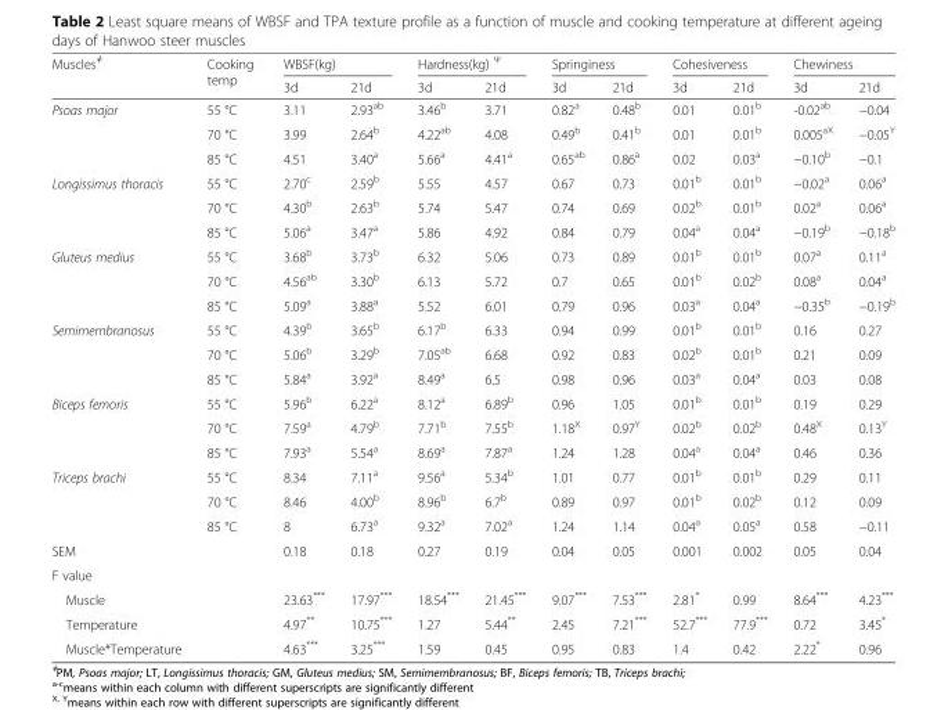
<table><thead><tr><td rowspan="2">Muscles<sup>ǂ</sup></td><td rowspan="2">Cooking temp</td><td colspan="2">WBSF(kg)</td><td colspan="2">Hardness(kg) <sup>Ψ</sup></td><td colspan="2">Springiness</td><td colspan="2">Cohesiveness</td><td colspan="2">Chewiness</td></tr><tr><td>3d</td><td>21d</td><td>3d</td><td>21d</td><td>3d</td><td>21d</td><td>3d</td><td>21d</td><td>3d</td><td>21d</td></tr></thead><tbody><tr><td rowspan="3">Psoas major</td><td>55 °C</td><td>3.11</td><td>2.93<sup>ab</sup></td><td>3.46<sup>b</sup></td><td>3.71</td><td>0.82<sup>a</sup></td><td>0.48<sup>b</sup></td><td>0.01</td><td>0.01<sup>b</sup></td><td>-0.02<sup>ab</sup></td><td>−0.04</td></tr><tr><td>70 °C</td><td>3.99</td><td>2.64<sup>b</sup></td><td>4.22<sup>ab</sup></td><td>4.08</td><td>0.49<sup>b</sup></td><td>0.41<sup>b</sup></td><td>0.01</td><td>0.01<sup>b</sup></td><td>0.005<sup>aX</sup></td><td>−0.05<sup>Y</sup></td></tr><tr><td>85 °C</td><td>4.51</td><td>3.40<sup>a</sup></td><td>5.66<sup>a</sup></td><td>4.41<sup>a</sup></td><td>0.65<sup>ab</sup></td><td>0.86<sup>a</sup></td><td>0.02</td><td>0.03<sup>a</sup></td><td>−0.10<sup>b</sup></td><td>−0.1</td></tr><tr><td rowspan="3">Longissimus thoracis</td><td>55 °C</td><td>2.70<sup>c</sup></td><td>2.59<sup>b</sup></td><td>5.55</td><td>4.57</td><td>0.67</td><td>0.73</td><td>0.01<sup>b</sup></td><td>0.01<sup>b</sup></td><td>−0.02<sup>a</sup></td><td>0.06<sup>a</sup></td></tr><tr><td>70 °C</td><td>4.30<sup>b</sup></td><td>2.63<sup>b</sup></td><td>5.74</td><td>5.47</td><td>0.74</td><td>0.69</td><td>0.02<sup>b</sup></td><td>0.01<sup>b</sup></td><td>0.02<sup>a</sup></td><td>0.06<sup>a</sup></td></tr><tr><td>85 °C</td><td>5.06<sup>a</sup></td><td>3.47<sup>a</sup></td><td>5.86</td><td>4.92</td><td>0.84</td><td>0.79</td><td>0.04<sup>a</sup></td><td>0.04<sup>a</sup></td><td>−0.19<sup>b</sup></td><td>−0.18<sup>b</sup></td></tr><tr><td rowspan="3">Gluteus medius</td><td>55 °C</td><td>3.68<sup>b</sup></td><td>3.73<sup>b</sup></td><td>6.32</td><td>5.06</td><td>0.73</td><td>0.89</td><td>0.01<sup>b</sup></td><td>0.01<sup>b</sup></td><td>0.07<sup>a</sup></td><td>0.11<sup>a</sup></td></tr><tr><td>70 °C</td><td>4.56<sup>ab</sup></td><td>3.30<sup>b</sup></td><td>6.13</td><td>5.72</td><td>0.7</td><td>0.65</td><td>0.01<sup>b</sup></td><td>0.02<sup>b</sup></td><td>0.08<sup>a</sup></td><td>0.04<sup>a</sup></td></tr><tr><td>85 °C</td><td>5.09<sup>a</sup></td><td>3.88<sup>a</sup></td><td>5.52</td><td>6.01</td><td>0.79</td><td>0.96</td><td>0.03<sup>a</sup></td><td>0.04<sup>a</sup></td><td>−0.35<sup>b</sup></td><td>−0.19<sup>b</sup></td></tr><tr><td rowspan="3">Semimembranosus</td><td>55 °C</td><td>4.39<sup>b</sup></td><td>3.65<sup>b</sup></td><td>6.17<sup>b</sup></td><td>6.33</td><td>0.94</td><td>0.99</td><td>0.01<sup>b</sup></td><td>0.01<sup>b</sup></td><td>0.16</td><td>0.27</td></tr><tr><td>70 °C</td><td>5.06<sup>b</sup></td><td>3.29<sup>b</sup></td><td>7.05<sup>ab</sup></td><td>6.68</td><td>0.92</td><td>0.83</td><td>0.02<sup>b</sup></td><td>0.01<sup>b</sup></td><td>0.21</td><td>0.09</td></tr><tr><td>85 °C</td><td>5.84<sup>a</sup></td><td>3.92<sup>a</sup></td><td>8.49<sup>a</sup></td><td>6.5</td><td>0.98</td><td>0.96</td><td>0.03<sup>a</sup></td><td>0.04<sup>a</sup></td><td>0.03</td><td>0.08</td></tr><tr><td rowspan="3">Biceps femoris</td><td>55 °C</td><td>5.96<sup>b</sup></td><td>6.22<sup>a</sup></td><td>8.12<sup>a</sup></td><td>6.89<sup>b</sup></td><td>0.96</td><td>1.05</td><td>0.01<sup>b</sup></td><td>0.01<sup>b</sup></td><td>0.19</td><td>0.29</td></tr><tr><td>70 °C</td><td>7.59<sup>a</sup></td><td>4.79<sup>b</sup></td><td>7.71<sup>b</sup></td><td>7.55<sup>b</sup></td><td>1.18<sup>X</sup></td><td>0.97<sup>Y</sup></td><td>0.02<sup>b</sup></td><td>0.02<sup>b</sup></td><td>0.48<sup>X</sup></td><td>0.13<sup>Y</sup></td></tr><tr><td>85 °C</td><td>7.93<sup>a</sup></td><td>5.54<sup>a</sup></td><td>8.69<sup>a</sup></td><td>7.87<sup>a</sup></td><td>1.24</td><td>1.28</td><td>0.04<sup>a</sup></td><td>0.04<sup>a</sup></td><td>0.46</td><td>0.36</td></tr><tr><td rowspan="3">Triceps brachi</td><td>55 °C</td><td>8.34</td><td>7.11<sup>a</sup></td><td>9.56<sup>a</sup></td><td>5.34<sup>b</sup></td><td>1.01</td><td>0.77</td><td>0.01<sup>b</sup></td><td>0.01<sup>b</sup></td><td>0.29</td><td>0.11</td></tr><tr><td>70 °C</td><td>8.46</td><td>4.00<sup>b</sup></td><td>8.96<sup>b</sup></td><td>6.7<sup>b</sup></td><td>0.89</td><td>0.97</td><td>0.01<sup>b</sup></td><td>0.02<sup>b</sup></td><td>0.12</td><td>0.09</td></tr><tr><td>85 °C</td><td>8</td><td>6.73<sup>a</sup></td><td>9.32<sup>a</sup></td><td>7.02<sup>a</sup></td><td>1.24</td><td>1.14</td><td>0.04<sup>a</sup></td><td>0.05<sup>a</sup></td><td>0.58</td><td>−0.11</td></tr><tr><td>SEM</td><td></td><td>0.18</td><td>0.18</td><td>0.27</td><td>0.19</td><td>0.04</td><td>0.05</td><td>0.001</td><td>0.002</td><td>0.05</td><td>0.04</td></tr><tr><td colspan="12">F value</td></tr><tr><td>Muscle</td><td></td><td>23.63***</td><td>17.97***</td><td>18.54***</td><td>21.45***</td><td>9.07***</td><td>7.53***</td><td>2.81*</td><td>0.99</td><td>8.64***</td><td>4.23***</td></tr><tr><td>Temperature</td><td></td><td>4.97**</td><td>10.75***</td><td>1.27</td><td>5.44**</td><td>2.45</td><td>7.21***</td><td>52.7***</td><td>77.9***</td><td>0.72</td><td>3.45*</td></tr><tr><td>Muscle*Temperature</td><td></td><td>4.63***</td><td>3.25***</td><td>1.59</td><td>0.45</td><td>0.95</td><td>0.83</td><td>1.4</td><td>0.42</td><td>2.22*</td><td>0.96</td></tr></tbody></table>